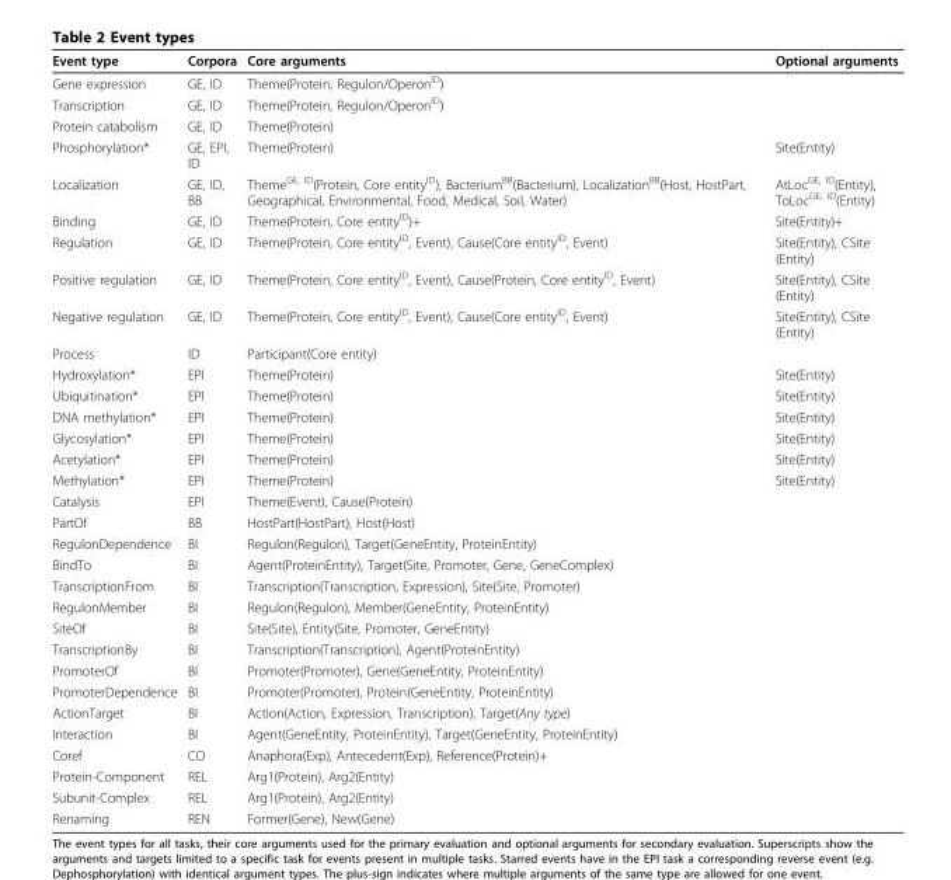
<table><thead><tr><td>Event type</td><td>Corpora</td><td>Core arguments</td><td>Optional arguments</td></tr></thead><tbody><tr><td>Gene expression</td><td>GE, ID</td><td>Theme(Protein, Regulon/Operon<sup>ID</sup>)</td><td></td></tr><tr><td>Transcription</td><td>GE, ID</td><td>Theme(Protein, Regulon/Operon<sup>ID</sup>)</td><td></td></tr><tr><td>Protein catabolism</td><td>GE, ID</td><td>Theme(Protein)</td><td></td></tr><tr><td>Phosphorylation*</td><td>GE, EPI, ID</td><td>Theme(Protein)</td><td>Site(Entity)</td></tr><tr><td>Localization</td><td>GE, ID, BB</td><td>Theme<sup>GE, ID</sup>(Protein, Core entity<sup>ID</sup>), Bacterium<sup>BB</sup>(Bacterium), Localization<sup>BB</sup>(Host, HostPart, Geographical, Environmental, Food, Medical, Soil, Water)</td><td>AtLoc<sup>GE, ID</sup>(Entity), ToLoc<sup>GE, ID</sup>(Entity)</td></tr><tr><td>Binding</td><td>GE, ID</td><td>Theme(Protein, Core entity<sup>ID</sup>)+</td><td>Site(Entity)+</td></tr><tr><td>Regulation</td><td>GE, ID</td><td>Theme(Protein, Core entity<sup>ID</sup>, Event), Cause(Core entity<sup>ID</sup>, Event)</td><td>Site(Entity), CSite (Entity)</td></tr><tr><td>Positive regulation</td><td>GE, ID</td><td>Theme(Protein, Core entity<sup>ID</sup>, Event), Cause(Protein, Core entity<sup>ID</sup>, Event)</td><td>Site(Entity), CSite (Entity)</td></tr><tr><td>Negative regulation</td><td>GE, ID</td><td>Theme(Protein, Core entity<sup>ID</sup>, Event), Cause(Core entity<sup>ID</sup>, Event)</td><td>Site(Entity), CSite (Entity)</td></tr><tr><td>Process</td><td>ID</td><td>Participant(Core entity)</td><td></td></tr><tr><td>Hydroxylation*</td><td>EPI</td><td>Theme(Protein)</td><td>Site(Entity)</td></tr><tr><td>Ubiquitination*</td><td>EPI</td><td>Theme(Protein)</td><td>Site(Entity)</td></tr><tr><td>DNA methylation*</td><td>EPI</td><td>Theme(Protein)</td><td>Site(Entity)</td></tr><tr><td>Glycosylation*</td><td>EPI</td><td>Theme(Protein)</td><td>Site(Entity)</td></tr><tr><td>Acetylation*</td><td>EPI</td><td>Theme(Protein)</td><td>Site(Entity)</td></tr><tr><td>Methylation*</td><td>EPI</td><td>Theme(Protein)</td><td>Site(Entity)</td></tr><tr><td>Catalysis</td><td>EPI</td><td>Theme(Event), Cause(Protein)</td><td></td></tr><tr><td>PartOf</td><td>BB</td><td>HostPart(HostPart), Host(Host)</td><td></td></tr><tr><td>RegulonDependence</td><td>BI</td><td>Regulon(Regulon), Target(GeneEntity, ProteinEntity)</td><td></td></tr><tr><td>BindTo</td><td>BI</td><td>Agent(ProteinEntity), Target(Site, Promoter, Gene, GeneComplex)</td><td></td></tr><tr><td>TranscriptionFrom</td><td>BI</td><td>Transcription(Transcription, Expression), Site(Site, Promoter)</td><td></td></tr><tr><td>RegulonMember</td><td>BI</td><td>Regulon(Regulon), Member(GeneEntity, ProteinEntity)</td><td></td></tr><tr><td>SiteOf</td><td>BI</td><td>Site(Site), Entity(Site, Promoter, GeneEntity)</td><td></td></tr><tr><td>TranscriptionBy</td><td>BI</td><td>Transcription(Transcription), Agent(ProteinEntity)</td><td></td></tr><tr><td>PromoterOf</td><td>BI</td><td>Promoter(Promoter), Gene(GeneEntity, ProteinEntity)</td><td></td></tr><tr><td>PromoterDependence</td><td>BI</td><td>Promoter(Promoter), Protein(GeneEntity, ProteinEntity)</td><td></td></tr><tr><td>ActionTarget</td><td>BI</td><td>Action(Action, Expression, Transcription), Target(Any type)</td><td></td></tr><tr><td>Interaction</td><td>BI</td><td>Agent(GeneEntity, ProteinEntity), Target(GeneEntity, ProteinEntity)</td><td></td></tr><tr><td>Coref</td><td>CO</td><td>Anaphora(Exp), Antecedent(Exp), Reference(Protein)+</td><td></td></tr><tr><td>Protein-Component</td><td>REL</td><td>Arg1(Protein), Arg2(Entity)</td><td></td></tr><tr><td>Subunit-Complex</td><td>REL</td><td>Arg1(Protein), Arg2(Entity)</td><td></td></tr><tr><td>Renaming</td><td>REN</td><td>Former(Gene), New(Gene)</td><td></td></tr></tbody></table>